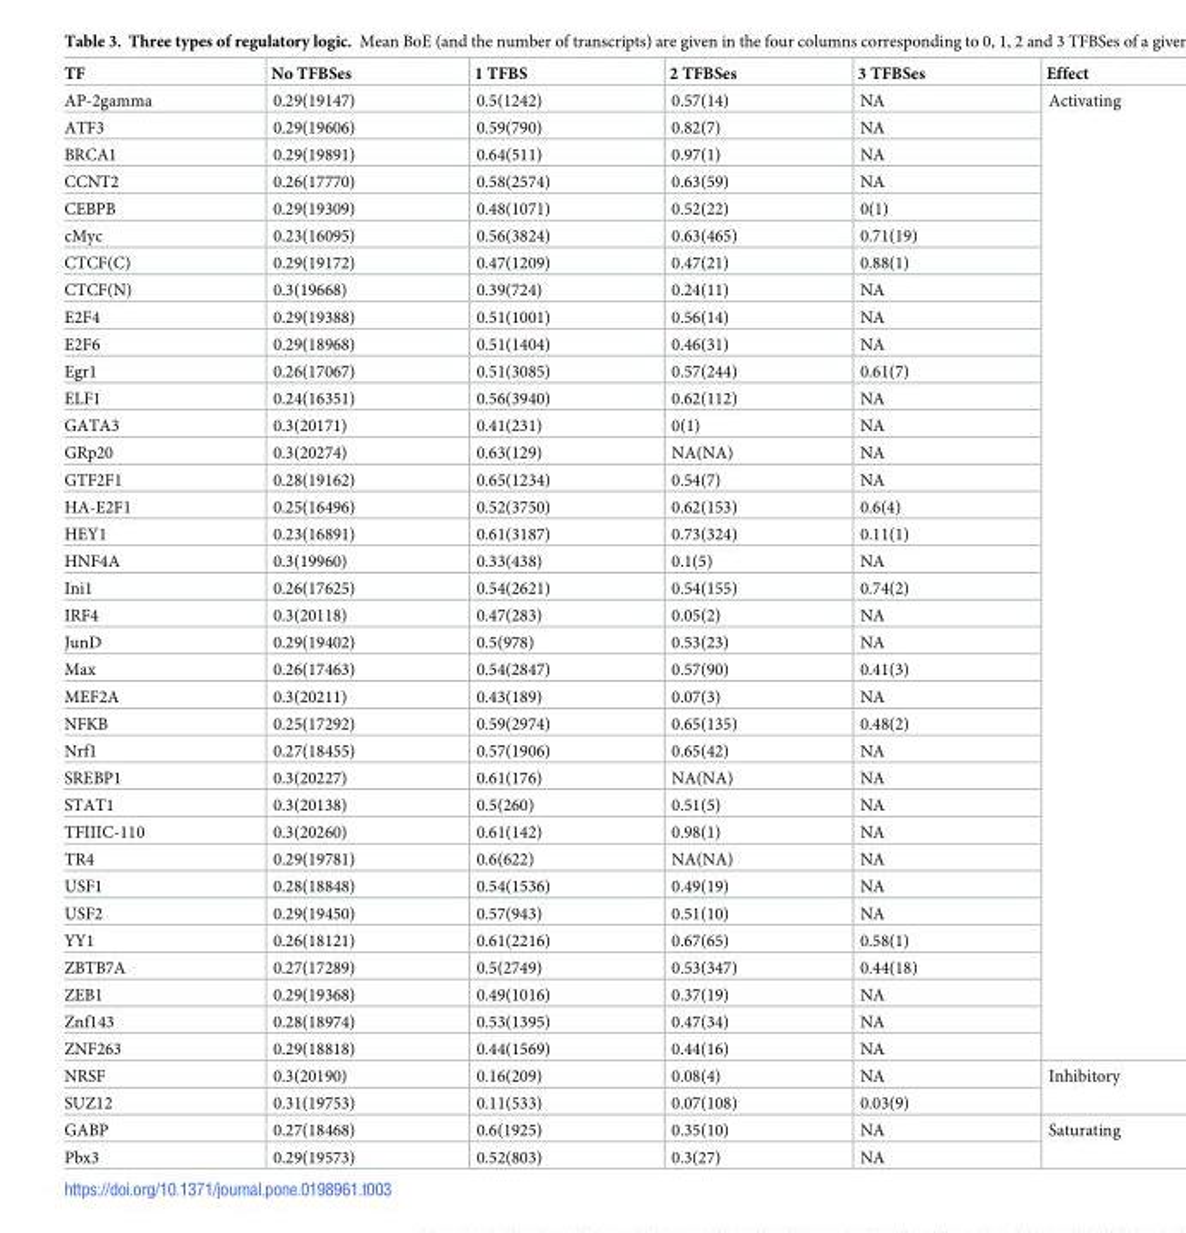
<table><thead><tr><td>TF</td><td>No TFBSes</td><td>1 TFBS</td><td>2 TFBSes</td><td>3 TFBSes</td><td>Effect</td></tr></thead><tbody><tr><td>AP-2gamma</td><td>0.29(19147)</td><td>0.5(1242)</td><td>0.57(14)</td><td>NA</td><td rowspan="36">Activating</td></tr><tr><td>ATF3</td><td>0.29(19606)</td><td>0.59(790)</td><td>0.82(7)</td><td>NA</td></tr><tr><td>BRCA1</td><td>0.29(19891)</td><td>0.64(511)</td><td>0.97(1)</td><td>NA</td></tr><tr><td>CCNT2</td><td>0.26(17770)</td><td>0.58(2574)</td><td>0.63(59)</td><td>NA</td></tr><tr><td>CEBPB</td><td>0.29(19309)</td><td>0.48(1071)</td><td>0.52(22)</td><td>0(1)</td></tr><tr><td>cMyc</td><td>0.23(16095)</td><td>0.56(3824)</td><td>0.63(465)</td><td>0.71(19)</td></tr><tr><td>CTCF(C)</td><td>0.29(19172)</td><td>0.47(1209)</td><td>0.47(21)</td><td>0.88(1)</td></tr><tr><td>CTCF(N)</td><td>0.3(19668)</td><td>0.39(724)</td><td>0.24(11)</td><td>NA</td></tr><tr><td>E2F4</td><td>0.29(19388)</td><td>0.51(1001)</td><td>0.56(14)</td><td>NA</td></tr><tr><td>E2F6</td><td>0.29(18968)</td><td>0.51(1404)</td><td>0.46(31)</td><td>NA</td></tr><tr><td>Egr1</td><td>0.26(17067)</td><td>0.51(3085)</td><td>0.57(244)</td><td>0.61(7)</td></tr><tr><td>ELF1</td><td>0.24(16351)</td><td>0.56(3940)</td><td>0.62(112)</td><td>NA</td></tr><tr><td>GATA3</td><td>0.3(20171)</td><td>0.41(231)</td><td>0(1)</td><td>NA</td></tr><tr><td>GRp20</td><td>0.3(20274)</td><td>0.63(129)</td><td>NA(NA)</td><td>NA</td></tr><tr><td>GTF2F1</td><td>0.28(19162)</td><td>0.65(1234)</td><td>0.54(7)</td><td>NA</td></tr><tr><td>HA-E2F1</td><td>0.25(16496)</td><td>0.52(3750)</td><td>0.62(153)</td><td>0.6(4)</td></tr><tr><td>HEY1</td><td>0.23(16891)</td><td>0.61(3187)</td><td>0.73(324)</td><td>0.11(1)</td></tr><tr><td>HNF4A</td><td>0.3(19960)</td><td>0.33(438)</td><td>0.1(5)</td><td>NA</td></tr><tr><td>Ini1</td><td>0.26(17625)</td><td>0.54(2621)</td><td>0.54(155)</td><td>0.74(2)</td></tr><tr><td>IRF4</td><td>0.3(20118)</td><td>0.47(283)</td><td>0.05(2)</td><td>NA</td></tr><tr><td>JunD</td><td>0.29(19402)</td><td>0.5(978)</td><td>0.53(23)</td><td>NA</td></tr><tr><td>Max</td><td>0.26(17463)</td><td>0.54(2847)</td><td>0.57(90)</td><td>0.41(3)</td></tr><tr><td>MEF2A</td><td>0.3(20211)</td><td>0.43(189)</td><td>0.07(3)</td><td>NA</td></tr><tr><td>NFKB</td><td>0.25(17292)</td><td>0.59(2974)</td><td>0.65(135)</td><td>0.48(2)</td></tr><tr><td>Nrf1</td><td>0.27(18455)</td><td>0.57(1906)</td><td>0.65(42)</td><td>NA</td></tr><tr><td>SREBP1</td><td>0.3(20227)</td><td>0.61(176)</td><td>NA(NA)</td><td>NA</td></tr><tr><td>STAT1</td><td>0.3(20138)</td><td>0.5(260)</td><td>0.51(5)</td><td>NA</td></tr><tr><td>TFIIIC-110</td><td>0.3(20260)</td><td>0.61(142)</td><td>0.98(1)</td><td>NA</td></tr><tr><td>TR4</td><td>0.29(19781)</td><td>0.6(622)</td><td>NA(NA)</td><td>NA</td></tr><tr><td>USF1</td><td>0.28(18848)</td><td>0.54(1536)</td><td>0.49(19)</td><td>NA</td></tr><tr><td>USF2</td><td>0.29(19450)</td><td>0.57(943)</td><td>0.51(10)</td><td>NA</td></tr><tr><td>YY1</td><td>0.26(18121)</td><td>0.61(2216)</td><td>0.67(65)</td><td>0.58(1)</td></tr><tr><td>ZBTB7A</td><td>0.27(17289)</td><td>0.5(2749)</td><td>0.53(347)</td><td>0.44(18)</td></tr><tr><td>ZEB1</td><td>0.29(19368)</td><td>0.49(1016)</td><td>0.37(19)</td><td>NA</td></tr><tr><td>Znf143</td><td>0.28(18974)</td><td>0.53(1395)</td><td>0.47(34)</td><td>NA</td></tr><tr><td>ZNF263</td><td>0.29(18818)</td><td>0.44(1569)</td><td>0.44(16)</td><td>NA</td></tr><tr><td>NRSF</td><td>0.3(20190)</td><td>0.16(209)</td><td>0.08(4)</td><td>NA</td><td rowspan="2">Inhibitory</td></tr><tr><td>SUZ12</td><td>0.31(19753)</td><td>0.11(533)</td><td>0.07(108)</td><td>0.03(9)</td></tr><tr><td>GABP</td><td>0.27(18468)</td><td>0.6(1925)</td><td>0.35(10)</td><td>NA</td><td rowspan="2">Saturating</td></tr><tr><td>Pbx3</td><td>0.29(19573)</td><td>0.52(803)</td><td>0.3(27)</td><td>NA</td></tr></tbody></table>